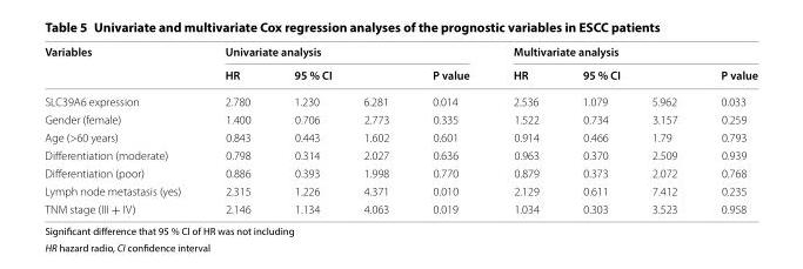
<table><thead><tr><td rowspan="3">Variables SLC39A6 expression</td><td colspan="4">Univariate analysis</td><td colspan="4">Multivariate analysis</td></tr><tr><td rowspan="2">HR 2.780</td><td colspan="2">95 % CI</td><td rowspan="2">P value 0.014</td><td rowspan="2">HR 2.536</td><td colspan="2">95 % CI</td><td rowspan="2">P value 0.033</td></tr><tr><td>1.230</td><td>6.281</td><td>1.079</td><td>5.962</td></tr></thead><tbody><tr><td>Gender (female)</td><td>1.400</td><td>0.706</td><td>2.773</td><td>0.335</td><td>1.522</td><td>0.734</td><td>3.157</td><td>0.259</td></tr><tr><td>Age (&gt;60 years)</td><td>0.843</td><td>0.443</td><td>1.602</td><td>0.601</td><td>0.914</td><td>0.466</td><td>1.79</td><td>0.793</td></tr><tr><td>Differentiation (moderate)</td><td>0.798</td><td>0.314</td><td>2.027</td><td>0.636</td><td>0.963</td><td>0.370</td><td>2.509</td><td>0.939</td></tr><tr><td>Differentiation (poor)</td><td>0.886</td><td>0.393</td><td>1.998</td><td>0.770</td><td>0.879</td><td>0.373</td><td>2.072</td><td>0.768</td></tr><tr><td>Lymph node metastasis (yes)</td><td>2.315</td><td>1.226</td><td>4.371</td><td>0.010</td><td>2.129</td><td>0.611</td><td>7.412</td><td>0.235</td></tr><tr><td>TNM stage (III + IV)</td><td>2.146</td><td>1.134</td><td>4.063</td><td>0.019</td><td>1.034</td><td>0.303</td><td>3.523</td><td>0.958</td></tr></tbody></table>